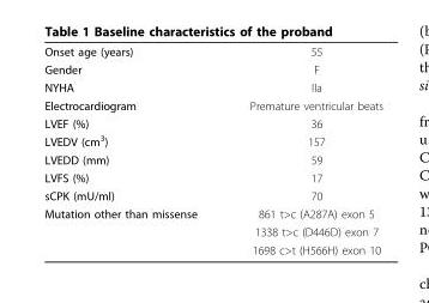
<table><tbody><tr><td>Onset age (years)</td><td>55</td></tr><tr><td>Gender</td><td>F</td></tr><tr><td>NYHA</td><td>IIa</td></tr><tr><td>Electrocardiogram</td><td>Premature ventricular beats</td></tr><tr><td>LVEF (%)</td><td>36</td></tr><tr><td>LVEDV (cm<sup>3</sup>)</td><td>157</td></tr><tr><td>LVEDD (mm)</td><td>59</td></tr><tr><td>LVFS (%)</td><td>17</td></tr><tr><td>sCPK (mU/ml)</td><td>70</td></tr><tr><td rowspan="3">Mutation other than missense</td><td>861 t&gt;c (A287A) exon 5</td></tr><tr><td>1338 t&gt;c (D446D) exon 7</td></tr><tr><td>1698 c&gt;t (H566H) exon 10</td></tr></tbody></table>